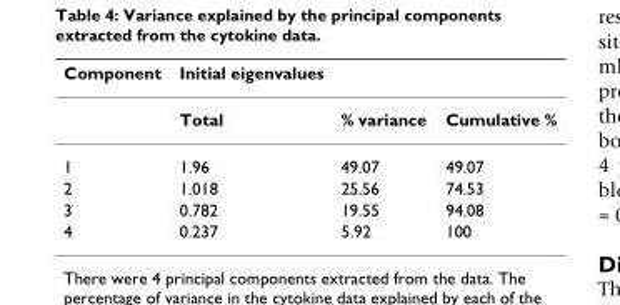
<table><thead><tr><td>Component</td><td>Initial eigenvalues</td><td></td><td></td></tr></thead><tbody><tr><td></td><td>Total</td><td>% variance</td><td>Cumulative %</td></tr><tr><td>1</td><td>1.96</td><td>49.07</td><td>49.07</td></tr><tr><td>2</td><td>1.018</td><td>25.56</td><td>74.53</td></tr><tr><td>3</td><td>0.782</td><td>19.55</td><td>94.08</td></tr><tr><td>4</td><td>0.237</td><td>5.92</td><td>100</td></tr></tbody></table>